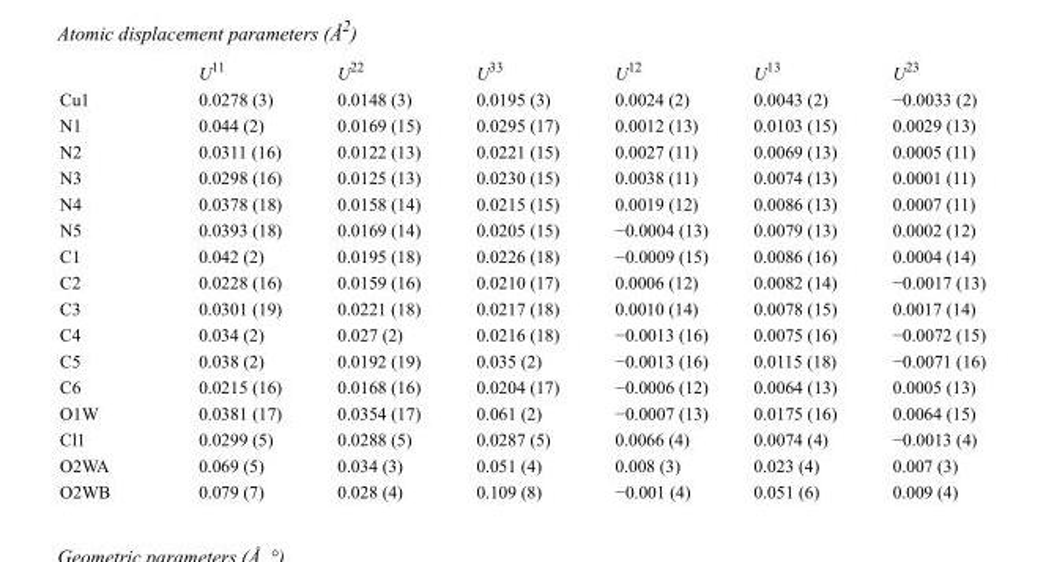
<table><thead><tr><td></td><td>U<sup>11</sup></td><td>U<sup>22</sup></td><td>U<sup>33</sup></td><td>U<sup>12</sup></td><td>U<sup>13</sup></td><td>U<sup>23</sup></td></tr></thead><tbody><tr><td>Cu1</td><td>0.0278 (3)</td><td>0.0148 (3)</td><td>0.0195 (3)</td><td>0.0024 (2)</td><td>0.0043 (2)</td><td>−0.0033 (2)</td></tr><tr><td>N1</td><td>0.044 (2)</td><td>0.0169 (15)</td><td>0.0295 (17)</td><td>0.0012 (13)</td><td>0.0103 (15)</td><td>0.0029 (13)</td></tr><tr><td>N2</td><td>0.0311 (16)</td><td>0.0122 (13)</td><td>0.0221 (15)</td><td>0.0027 (11)</td><td>0.0069 (13)</td><td>0.0005 (11)</td></tr><tr><td>N3</td><td>0.0298 (16)</td><td>0.0125 (13)</td><td>0.0230 (15)</td><td>0.0038 (11)</td><td>0.0074 (13)</td><td>0.0001 (11)</td></tr><tr><td>N4</td><td>0.0378 (18)</td><td>0.0158 (14)</td><td>0.0215 (15)</td><td>0.0019 (12)</td><td>0.0086 (13)</td><td>0.0007 (11)</td></tr><tr><td>N5</td><td>0.0393 (18)</td><td>0.0169 (14)</td><td>0.0205 (15)</td><td>−0.0004 (13)</td><td>0.0079 (13)</td><td>0.0002 (12)</td></tr><tr><td>C1</td><td>0.042 (2)</td><td>0.0195 (18)</td><td>0.0226 (18)</td><td>−0.0009 (15)</td><td>0.0086 (16)</td><td>0.0004 (14)</td></tr><tr><td>C2</td><td>0.0228 (16)</td><td>0.0159 (16)</td><td>0.0210 (17)</td><td>0.0006 (12)</td><td>0.0082 (14)</td><td>−0.0017 (13)</td></tr><tr><td>C3</td><td>0.0301 (19)</td><td>0.0221 (18)</td><td>0.0217 (18)</td><td>0.0010 (14)</td><td>0.0078 (15)</td><td>0.0017 (14)</td></tr><tr><td>C4</td><td>0.034 (2)</td><td>0.027 (2)</td><td>0.0216 (18)</td><td>−0.0013 (16)</td><td>0.0075 (16)</td><td>−0.0072 (15)</td></tr><tr><td>C5</td><td>0.038 (2)</td><td>0.0192 (19)</td><td>0.035 (2)</td><td>−0.0013 (16)</td><td>0.0115 (18)</td><td>−0.0071 (16)</td></tr><tr><td>C6</td><td>0.0215 (16)</td><td>0.0168 (16)</td><td>0.0204 (17)</td><td>−0.0006 (12)</td><td>0.0064 (13)</td><td>0.0005 (13)</td></tr><tr><td>O1W</td><td>0.0381 (17)</td><td>0.0354 (17)</td><td>0.061 (2)</td><td>−0.0007 (13)</td><td>0.0175 (16)</td><td>0.0064 (15)</td></tr><tr><td>Cl1</td><td>0.0299 (5)</td><td>0.0288 (5)</td><td>0.0287 (5)</td><td>0.0066 (4)</td><td>0.0074 (4)</td><td>−0.0013 (4)</td></tr><tr><td>O2WA</td><td>0.069 (5)</td><td>0.034 (3)</td><td>0.051 (4)</td><td>0.008 (3)</td><td>0.023 (4)</td><td>0.007 (3)</td></tr><tr><td>O2WB</td><td>0.079 (7)</td><td>0.028 (4)</td><td>0.109 (8)</td><td>−0.001 (4)</td><td>0.051 (6)</td><td>0.009 (4)</td></tr></tbody></table>